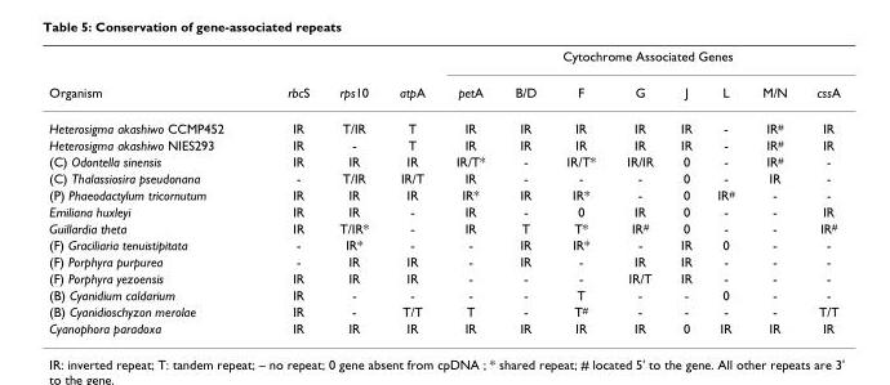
<table><thead><tr><td rowspan="2">Organism</td><td rowspan="2">rbcS</td><td rowspan="2">rps10</td><td rowspan="2">atpA</td><td colspan="8">Cytochrome Associated Genes</td></tr><tr><td>petA</td><td>B/D</td><td>F</td><td>G</td><td>J</td><td>L</td><td>M/N</td><td>cssA</td></tr></thead><tbody><tr><td>Heterosigma akashiwo CCMP452</td><td>IR</td><td>T/IR</td><td>T</td><td>IR</td><td>IR</td><td>IR</td><td>IR</td><td>IR</td><td>-</td><td>IR<sup>#</sup></td><td>IR</td></tr><tr><td>Heterosigma akashiwo NIES293</td><td>IR</td><td>-</td><td>T</td><td>IR</td><td>IR</td><td>IR</td><td>IR</td><td>IR</td><td>-</td><td>IR<sup>#</sup></td><td>IR</td></tr><tr><td>(C) Odontella sinensis</td><td>IR</td><td>IR</td><td>IR</td><td>IR/T*</td><td>-</td><td>IR/T*</td><td>IR/IR</td><td>0</td><td>-</td><td>IR<sup>#</sup></td><td>-</td></tr><tr><td>(C) Thalassiosira pseudonana</td><td>-</td><td>T/IR</td><td>IR/T</td><td>IR</td><td>-</td><td>-</td><td>-</td><td>0</td><td>-</td><td>IR</td><td>-</td></tr><tr><td>(P) Phaeodactylum tricornutum</td><td>IR</td><td>IR</td><td>IR</td><td>IR*</td><td>IR</td><td>IR*</td><td>-</td><td>0</td><td>IR<sup>#</sup></td><td>-</td><td>-</td></tr><tr><td>Emiliana huxleyi</td><td>IR</td><td>IR</td><td>-</td><td>IR</td><td>-</td><td>0</td><td>IR</td><td>0</td><td>-</td><td>-</td><td>IR</td></tr><tr><td>Guillardia theta</td><td>IR</td><td>T/IR*</td><td>-</td><td>IR</td><td>T</td><td>T*</td><td>IR<sup>#</sup></td><td>0</td><td>-</td><td>-</td><td>IR<sup>#</sup></td></tr><tr><td>(F) Graciliaria tenuistipitata</td><td>-</td><td>IR*</td><td>-</td><td>-</td><td>IR</td><td>IR*</td><td>-</td><td>IR</td><td>0</td><td>-</td><td>-</td></tr><tr><td>(F) Porphyra purpurea</td><td>-</td><td>IR</td><td>IR</td><td>-</td><td>IR</td><td>-</td><td>IR</td><td>IR</td><td>-</td><td>-</td><td>-</td></tr><tr><td>(F) Porphyra yezoensis</td><td>IR</td><td>IR</td><td>IR</td><td>-</td><td>-</td><td>-</td><td>IR/T</td><td>IR</td><td>-</td><td>-</td><td>-</td></tr><tr><td>(B) Cyanidium caldarium</td><td>IR</td><td>-</td><td>-</td><td>-</td><td>-</td><td>T</td><td>-</td><td>-</td><td>0</td><td>-</td><td>-</td></tr><tr><td>(B) Cyanidioschyzon merolae</td><td>IR</td><td>-</td><td>T/T</td><td>T</td><td>-</td><td>T<sup>#</sup></td><td>-</td><td>-</td><td>-</td><td>-</td><td>T/T</td></tr><tr><td>Cyanophora paradoxa</td><td>IR</td><td>IR</td><td>IR</td><td>IR</td><td>IR</td><td>IR</td><td>IR</td><td>0</td><td>IR</td><td>IR</td><td>IR</td></tr></tbody></table>